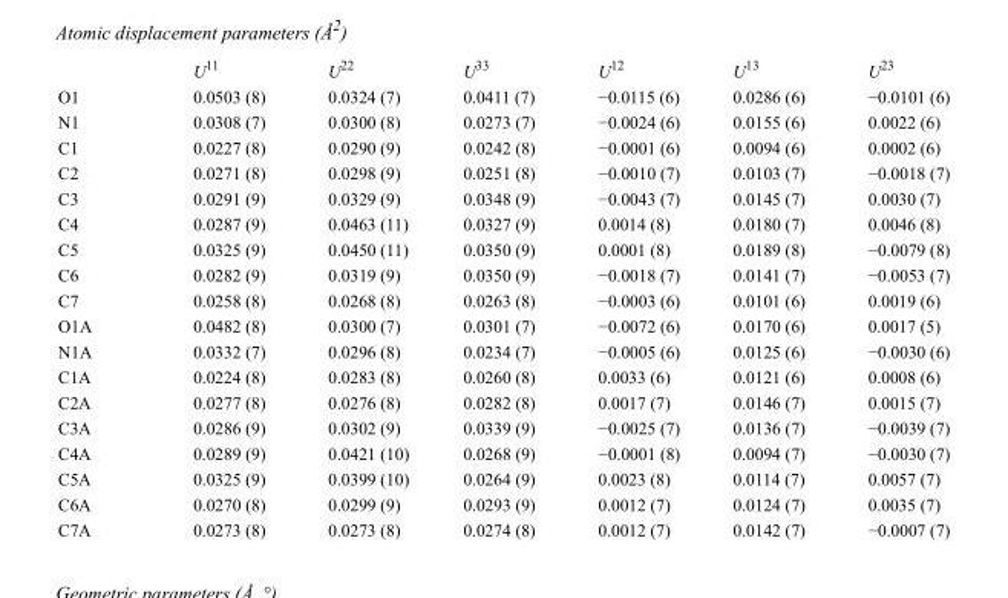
<table><thead><tr><td></td><td>U<sup>11</sup></td><td>U<sup>22</sup></td><td>U<sup>33</sup></td><td>U<sup>12</sup></td><td>U<sup>13</sup></td><td>U<sup>23</sup></td></tr></thead><tbody><tr><td>O1</td><td>0.0503 (8)</td><td>0.0324 (7)</td><td>0.0411 (7)</td><td>−0.0115 (6)</td><td>0.0286 (6)</td><td>−0.0101 (6)</td></tr><tr><td>N1</td><td>0.0308 (7)</td><td>0.0300 (8)</td><td>0.0273 (7)</td><td>−0.0024 (6)</td><td>0.0155 (6)</td><td>0.0022 (6)</td></tr><tr><td>C1</td><td>0.0227 (8)</td><td>0.0290 (9)</td><td>0.0242 (8)</td><td>−0.0001 (6)</td><td>0.0094 (6)</td><td>0.0002 (6)</td></tr><tr><td>C2</td><td>0.0271 (8)</td><td>0.0298 (9)</td><td>0.0251 (8)</td><td>−0.0010 (7)</td><td>0.0103 (7)</td><td>−0.0018 (7)</td></tr><tr><td>C3</td><td>0.0291 (9)</td><td>0.0329 (9)</td><td>0.0348 (9)</td><td>−0.0043 (7)</td><td>0.0145 (7)</td><td>0.0030 (7)</td></tr><tr><td>C4</td><td>0.0287 (9)</td><td>0.0463 (11)</td><td>0.0327 (9)</td><td>0.0014 (8)</td><td>0.0180 (7)</td><td>0.0046 (8)</td></tr><tr><td>C5</td><td>0.0325 (9)</td><td>0.0450 (11)</td><td>0.0350 (9)</td><td>0.0001 (8)</td><td>0.0189 (8)</td><td>−0.0079 (8)</td></tr><tr><td>C6</td><td>0.0282 (9)</td><td>0.0319 (9)</td><td>0.0350 (9)</td><td>−0.0018 (7)</td><td>0.0141 (7)</td><td>−0.0053 (7)</td></tr><tr><td>C7</td><td>0.0258 (8)</td><td>0.0268 (8)</td><td>0.0263 (8)</td><td>−0.0003 (6)</td><td>0.0101 (6)</td><td>0.0019 (6)</td></tr><tr><td>O1A</td><td>0.0482 (8)</td><td>0.0300 (7)</td><td>0.0301 (7)</td><td>−0.0072 (6)</td><td>0.0170 (6)</td><td>0.0017 (5)</td></tr><tr><td>N1A</td><td>0.0332 (7)</td><td>0.0296 (8)</td><td>0.0234 (7)</td><td>−0.0005 (6)</td><td>0.0125 (6)</td><td>−0.0030 (6)</td></tr><tr><td>C1A</td><td>0.0224 (8)</td><td>0.0283 (8)</td><td>0.0260 (8)</td><td>0.0033 (6)</td><td>0.0121 (6)</td><td>0.0008 (6)</td></tr><tr><td>C2A</td><td>0.0277 (8)</td><td>0.0276 (8)</td><td>0.0282 (8)</td><td>0.0017 (7)</td><td>0.0146 (7)</td><td>0.0015 (7)</td></tr><tr><td>C3A</td><td>0.0286 (9)</td><td>0.0302 (9)</td><td>0.0339 (9)</td><td>−0.0025 (7)</td><td>0.0136 (7)</td><td>−0.0039 (7)</td></tr><tr><td>C4A</td><td>0.0289 (9)</td><td>0.0421 (10)</td><td>0.0268 (9)</td><td>−0.0001 (8)</td><td>0.0094 (7)</td><td>−0.0030 (7)</td></tr><tr><td>C5A</td><td>0.0325 (9)</td><td>0.0399 (10)</td><td>0.0264 (9)</td><td>0.0023 (8)</td><td>0.0114 (7)</td><td>0.0057 (7)</td></tr><tr><td>C6A</td><td>0.0270 (8)</td><td>0.0299 (9)</td><td>0.0293 (9)</td><td>0.0012 (7)</td><td>0.0124 (7)</td><td>0.0035 (7)</td></tr><tr><td>C7A</td><td>0.0273 (8)</td><td>0.0273 (8)</td><td>0.0274 (8)</td><td>0.0012 (7)</td><td>0.0142 (7)</td><td>−0.0007 (7)</td></tr></tbody></table>